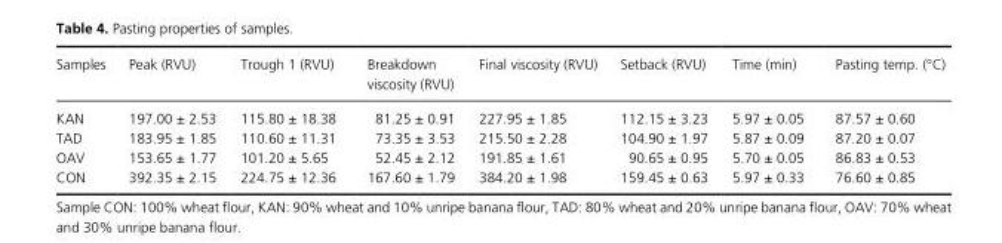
<table><thead><tr><td>Samples</td><td>Peak (RVU)</td><td>Trough 1 (RVU)</td><td>Breakdown viscosity (RVU)</td><td>Final viscosity (RVU)</td><td>Setback (RVU)</td><td>Time (min)</td><td>Pasting temp. (°C)</td></tr></thead><tbody><tr><td>KAN</td><td>197.00 ± 2.53</td><td>115.80 ± 18.38</td><td>81.25 ± 0.91</td><td>227.95 ± 1.85</td><td>112.15 ± 3.23</td><td>5.97 ± 0.05</td><td>87.57 ± 0.60</td></tr><tr><td>TAD</td><td>183.95 ± 1.85</td><td>110.60 ± 11.31</td><td>73.35 ± 3.53</td><td>215.50 ± 2.28</td><td>104.90 ± 1.97</td><td>5.87 ± 0.09</td><td>87.20 ± 0.07</td></tr><tr><td>OAV</td><td>153.65 ± 1.77</td><td>101.20 ± 5.65</td><td>52.45 ± 2.12</td><td>191.85 ± 1.61</td><td>90.65 ± 0.95</td><td>5.70 ± 0.05</td><td>86.83 ± 0.53</td></tr><tr><td>CON</td><td>392.35 ± 2.15</td><td>224.75 ± 12.36</td><td>167.60 ± 1.79</td><td>384.20 ± 1.98</td><td>159.45 ± 0.63</td><td>5.97 ± 0.33</td><td>76.60 ± 0.85</td></tr></tbody></table>